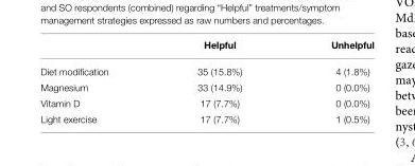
<table><thead><tr><td></td><td>Helpful</td><td>Unhelpful</td></tr></thead><tbody><tr><td>Diet modification</td><td>35 (15.8%)</td><td>4 (1.8%)</td></tr><tr><td>Magnesium</td><td>33 (14.9%)</td><td>0 (0.0%)</td></tr><tr><td>Vitamin D</td><td>17 (7.7%)</td><td>0 (0.0%)</td></tr><tr><td>Light exercise</td><td>17 (7.7%)</td><td>1 (0.5%)</td></tr></tbody></table>